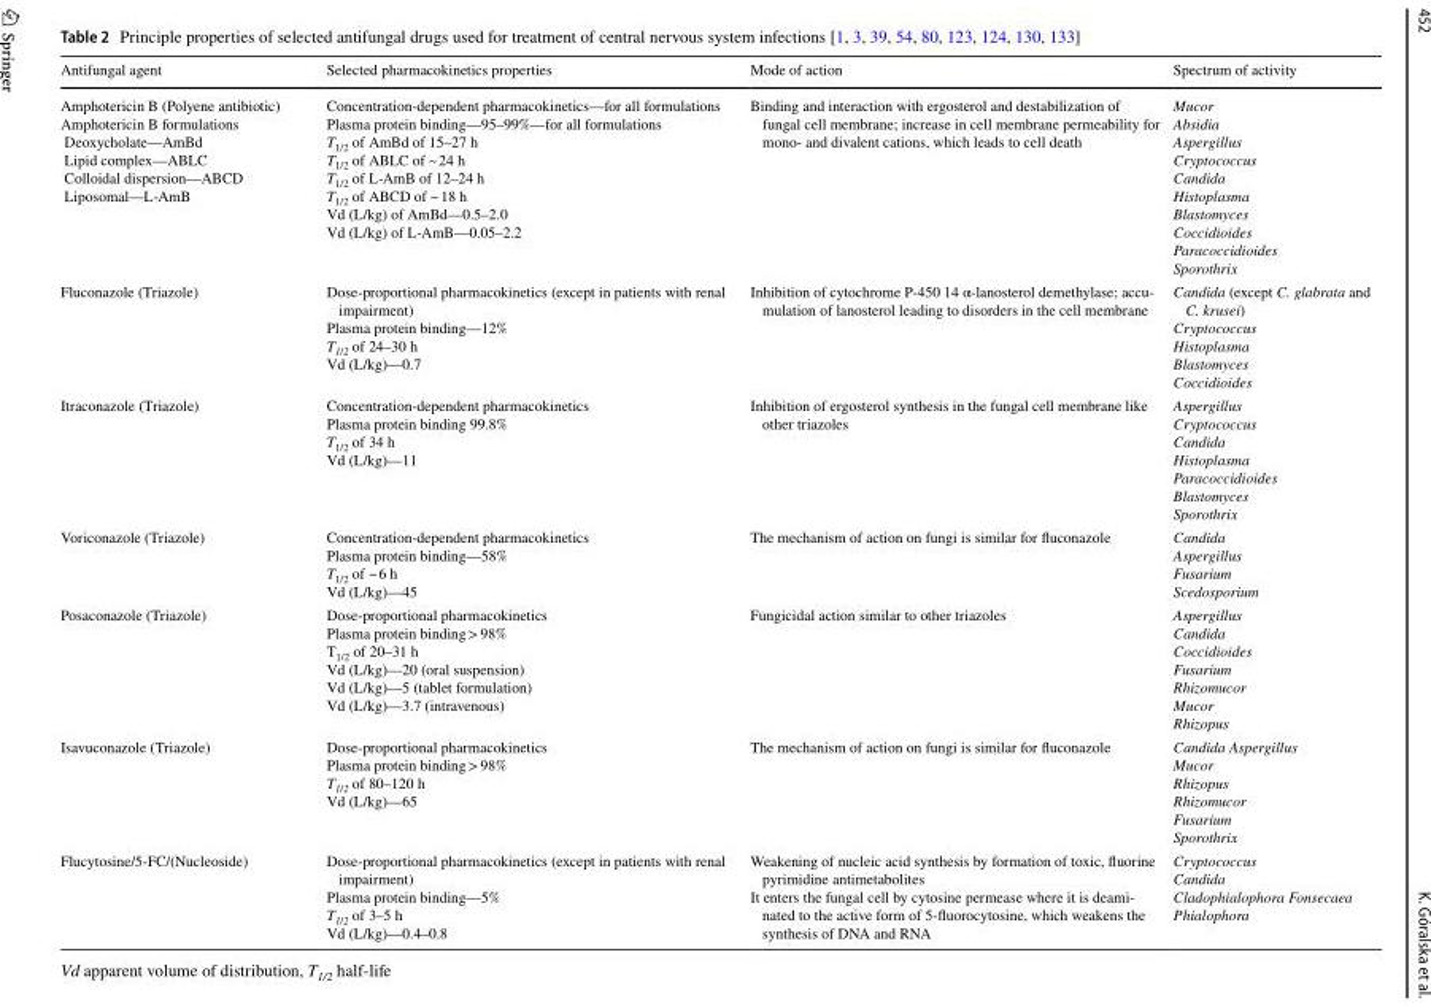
<table><thead><tr><td>Antifungal agent</td><td>Selected pharmacokinetics properties</td><td>Mode of action</td><td>Spectrum of activity</td></tr></thead><tbody><tr><td>Amphotericin B (Polyene antibiotic) Amphotericin B formulations Deoxycholate—AmBd Lipid complex—ABLC Colloidal dispersion—ABCD Liposomal—L-AmB</td><td>Concentration-dependent pharmacokinetics—for all formulations Plasma protein binding—95–99%—for all formulations T<sub>1/2</sub> of AmBd of 15–27 h T<sub>1/2</sub> of ABLC of ~ 24 h T<sub>1/2</sub> of L-AmB of 12–24 h T<sub>1/2</sub> of ABCD of ~ 18 h Vd (L/kg) of AmBd—0.5–2.0 Vd (L/kg) of L-AmB—0.05–2.2</td><td>Binding and interaction with ergosterol and destabilization of fungal cell membrane; increase in cell membrane permeability for mono- and divalent cations, which leads to cell death</td><td>Mucor Absidia Aspergillus Cryptococcus Candida Histoplasma Blastomyces Coccidioides Paracoccidioides Sporothrix</td></tr><tr><td>Fluconazole (Triazole)</td><td>Dose-proportional pharmacokinetics (except in patients with renal impairment) Plasma protein binding—12% T<sub>1/2</sub> of 24–30 h Vd (L/kg)—0.7</td><td>Inhibition of cytochrome P-450 14 α-lanosterol demethylase; accu- mulation of lanosterol leading to disorders in the cell membrane</td><td>Candida (except C. glabrata and C. krusei) Cryptococcus Histoplasma Blastomyces Coccidioides</td></tr><tr><td>Itraconazole (Triazole)</td><td>Concentration-dependent pharmacokinetics Plasma protein binding 99.8% T<sub>1/2</sub> of 34 h Vd (L/kg)—11</td><td>Inhibition of ergosterol synthesis in the fungal cell membrane like other triazoles</td><td>Aspergillus Cryptococcus Candida Histoplasma Paracoccidioides Blastomyces Sporothrix</td></tr><tr><td>Voriconazole (Triazole)</td><td>Concentration-dependent pharmacokinetics Plasma protein binding—58% T<sub>1/2</sub> of ~ 6 h Vd (L/kg)—45</td><td>The mechanism of action on fungi is similar for fluconazole</td><td>Candida Aspergillus Fusarium Scedosporium</td></tr><tr><td>Posaconazole (Triazole)</td><td>Dose-proportional pharmacokinetics Plasma protein binding &gt; 98% T<sub>1/2</sub> of 20–31 h Vd (L/kg)—20 (oral suspension) Vd (L/kg)—5 (tablet formulation) Vd (L/kg)—3.7 (intravenous)</td><td>Fungicidal action similar to other triazoles</td><td>Aspergillus Candida Coccidioides Fusarium Rhizomucor Mucor Rhizopus</td></tr><tr><td>Isavuconazole (Triazole)</td><td>Dose-proportional pharmacokinetics Plasma protein binding &gt; 98% T<sub>1/2</sub> of 80–120 h Vd (L/kg)—65</td><td>The mechanism of action on fungi is similar for fluconazole</td><td>Candida Aspergillus Mucor Rhizopus Rhizomucor Fusarium Sporothrix</td></tr><tr><td>Flucytosine/5-FC/(Nucleoside)</td><td>Dose-proportional pharmacokinetics (except in patients with renal impairment) Plasma protein binding—5% T<sub>1/2</sub> of 3–5 h Vd (L/kg)—0.4–0.8</td><td>Weakening of nucleic acid synthesis by formation of toxic, fluorine pyrimidine antimetabolites It enters the fungal cell by cytosine permease where it is deami- nated to the active form of 5-fluorocytosine, which weakens the synthesis of DNA and RNA</td><td>Cryptococcus Candida Cladophialophora Fonsecaea Phialophora</td></tr></tbody></table>